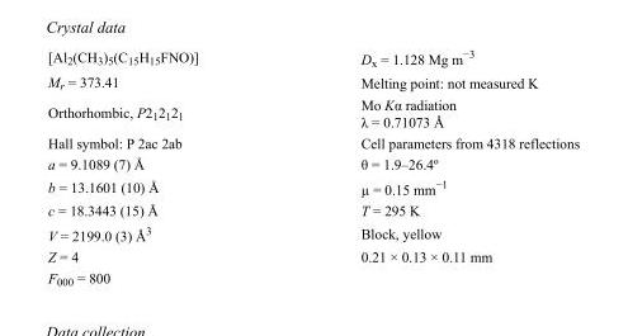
<table><tbody><tr><td>[Al<sub>2</sub>(CH<sub>3</sub>)<sub>5</sub>(C<sub>15</sub>H<sub>15</sub>FNO)]</td><td>D<sub>x</sub> = 1.128 Mg m<sup>−3</sup></td></tr><tr><td>M<sub>r</sub> = 373.41</td><td>Melting point: not measured K</td></tr><tr><td>Orthorhombic, P2<sub>1</sub>2<sub>1</sub>2<sub>1</sub></td><td>Mo Kα radiation λ = 0.71073 Å</td></tr><tr><td>Hall symbol: P 2ac 2ab</td><td>Cell parameters from 4318 reflections</td></tr><tr><td>a = 9.1089 (7) Å</td><td>θ = 1.9–26.4º</td></tr><tr><td>b = 13.1601 (10) Å</td><td>µ = 0.15 mm<sup>−1</sup></td></tr><tr><td>c = 18.3443 (15) Å</td><td>T = 295 K</td></tr><tr><td>V = 2199.0 (3) Å<sup>3</sup></td><td>Block, yellow</td></tr><tr><td>Z = 4</td><td>0.21 × 0.13 × 0.11 mm</td></tr><tr><td>F000 = 800</td><td></td></tr></tbody></table>